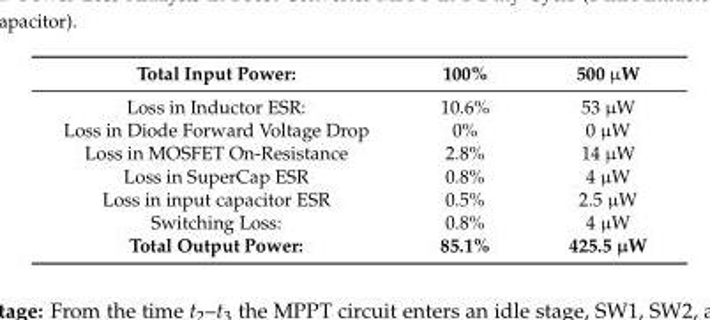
<table><thead><tr><td>Total Input Power:</td><td>100%</td><td>500 µW</td></tr></thead><tbody><tr><td>Loss in Inductor ESR:</td><td>10.6%</td><td>53 µW</td></tr><tr><td>Loss in Diode Forward Voltage Drop</td><td>0%</td><td>0 µW</td></tr><tr><td>Loss in MOSFET On-Resistance</td><td>2.8%</td><td>14 µW</td></tr><tr><td>Loss in SuperCap ESR</td><td>0.8%</td><td>4 µW</td></tr><tr><td>Loss in input capacitor ESR</td><td>0.5%</td><td>2.5 µW</td></tr><tr><td>Switching Loss:</td><td>0.8%</td><td>4 µW</td></tr><tr><td>Total Output Power:</td><td>85.1%</td><td>425.5 µW</td></tr></tbody></table>